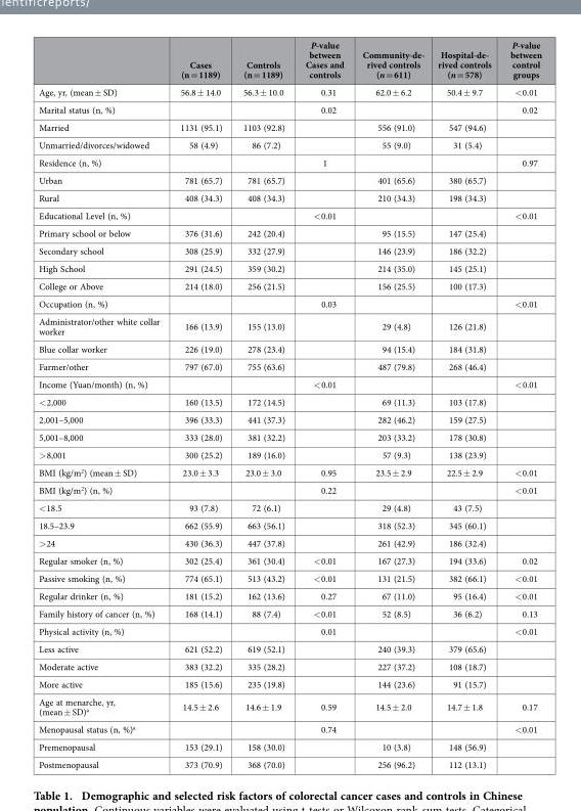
<table><thead><tr><td></td><td>Cases (n = 1189)</td><td>Controls (n = 1189)</td><td>P-value between Cases and controls</td><td>Community-de- rived controls (n = 611)</td><td>Hospital-de- rived controls (n = 578)</td><td>P-value between control groups</td></tr></thead><tbody><tr><td>Age, yr, (mean ± SD)</td><td>56.8 ± 14.0</td><td>56.3 ± 10.0</td><td>0.31</td><td>62.0 ± 6.2</td><td>50.4 ± 9.7</td><td>&lt; 0.01</td></tr><tr><td>Marital status (n, %)</td><td></td><td></td><td>0.02</td><td></td><td></td><td>0.02</td></tr><tr><td>Married</td><td>1131 (95.1)</td><td>1103 (92.8)</td><td></td><td>556 (91.0)</td><td>547 (94.6)</td><td></td></tr><tr><td>Unmarried/divorces/widowed</td><td>58 (4.9)</td><td>86 (7.2)</td><td></td><td>55 (9.0)</td><td>31 (5.4)</td><td></td></tr><tr><td>Residence (n, %)</td><td></td><td></td><td>1</td><td></td><td></td><td>0.97</td></tr><tr><td>Urban</td><td>781 (65.7)</td><td>781 (65.7)</td><td></td><td>401 (65.6)</td><td>380 (65.7)</td><td></td></tr><tr><td>Rural</td><td>408 (34.3)</td><td>408 (34.3)</td><td></td><td>210 (34.3)</td><td>198 (34.3)</td><td></td></tr><tr><td>Educational Level (n, %)</td><td></td><td></td><td>&lt; 0.01</td><td></td><td></td><td>&lt; 0.01</td></tr><tr><td>Primary school or below</td><td>376 (31.6)</td><td>242 (20.4)</td><td></td><td>95 (15.5)</td><td>147 (25.4)</td><td></td></tr><tr><td>Secondary school</td><td>308 (25.9)</td><td>332 (27.9)</td><td></td><td>146 (23.9)</td><td>186 (32.2)</td><td></td></tr><tr><td>High School</td><td>291 (24.5)</td><td>359 (30.2)</td><td></td><td>214 (35.0)</td><td>145 (25.1)</td><td></td></tr><tr><td>College or Above</td><td>214 (18.0)</td><td>256 (21.5)</td><td></td><td>156 (25.5)</td><td>100 (17.3)</td><td></td></tr><tr><td>Occupation (n, %)</td><td></td><td></td><td>0.03</td><td></td><td></td><td>&lt; 0.01</td></tr><tr><td>Administrator/other white collar worker</td><td>166 (13.9)</td><td>155 (13.0)</td><td></td><td>29 (4.8)</td><td>126 (21.8)</td><td></td></tr><tr><td>Blue collar worker</td><td>226 (19.0)</td><td>278 (23.4)</td><td></td><td>94 (15.4)</td><td>184 (31.8)</td><td></td></tr><tr><td>Farmer/other</td><td>797 (67.0)</td><td>755 (63.6)</td><td></td><td>487 (79.8)</td><td>268 (46.4)</td><td></td></tr><tr><td>Income (Yuan/month) (n, %)</td><td></td><td></td><td>&lt; 0.01</td><td></td><td></td><td>&lt; 0.01</td></tr><tr><td>&lt; 2,000</td><td>160 (13.5)</td><td>172 (14.5)</td><td></td><td>69 (11.3)</td><td>103 (17.8)</td><td></td></tr><tr><td>2,001–5,000</td><td>396 (33.3)</td><td>441 (37.3)</td><td></td><td>282 (46.2)</td><td>159 (27.5)</td><td></td></tr><tr><td>5,001–8,000</td><td>333 (28.0)</td><td>381 (32.2)</td><td></td><td>203 (33.2)</td><td>178 (30.8)</td><td></td></tr><tr><td>&gt; 8,001</td><td>300 (25.2)</td><td>189 (16.0)</td><td></td><td>57 (9.3)</td><td>138 (23.9)</td><td></td></tr><tr><td>BMI (kg/m<sup>2</sup>) (mean ± SD)</td><td>23.0 ± 3.3</td><td>23.0 ± 3.0</td><td>0.95</td><td>23.5 ± 2.9</td><td>22.5 ± 2.9</td><td>&lt; 0.01</td></tr><tr><td>BMI (kg/m<sup>2</sup>) (n, %)</td><td></td><td></td><td>0.22</td><td></td><td></td><td>&lt; 0.01</td></tr><tr><td>&lt; 18.5</td><td>93 (7.8)</td><td>72 (6.1)</td><td></td><td>29 (4.8)</td><td>43 (7.5)</td><td></td></tr><tr><td>18.5–23.9</td><td>662 (55.9)</td><td>663 (56.1)</td><td></td><td>318 (52.3)</td><td>345 (60.1)</td><td></td></tr><tr><td>&gt; 24</td><td>430 (36.3)</td><td>447 (37.8)</td><td></td><td>261 (42.9)</td><td>186 (32.4)</td><td></td></tr><tr><td>Regular smoker (n, %)</td><td>302 (25.4)</td><td>361 (30.4)</td><td>&lt; 0.01</td><td>167 (27.3)</td><td>194 (33.6)</td><td>0.02</td></tr><tr><td>Passive smoking (n, %)</td><td>774 (65.1)</td><td>513 (43.2)</td><td>&lt; 0.01</td><td>131 (21.5)</td><td>382 (66.1)</td><td>&lt; 0.01</td></tr><tr><td>Regular drinker (n, %)</td><td>181 (15.2)</td><td>162 (13.6)</td><td>0.27</td><td>67 (11.0)</td><td>95 (16.4)</td><td>&lt; 0.01</td></tr><tr><td>Family history of cancer (n, %)</td><td>168 (14.1)</td><td>88 (7.4)</td><td>&lt; 0.01</td><td>52 (8.5)</td><td>36 (6.2)</td><td>0.13</td></tr><tr><td>Physical activity (n, %)</td><td></td><td></td><td>0.01</td><td></td><td></td><td>&lt; 0.01</td></tr><tr><td>Less active</td><td>621 (52.2)</td><td>619 (52.1)</td><td></td><td>240 (39.3)</td><td>379 (65.6)</td><td></td></tr><tr><td>Moderate active</td><td>383 (32.2)</td><td>335 (28.2)</td><td></td><td>227 (37.2)</td><td>108 (18.7)</td><td></td></tr><tr><td>More active</td><td>185 (15.6)</td><td>235 (19.8)</td><td></td><td>144 (23.6)</td><td>91 (15.7)</td><td></td></tr><tr><td>Age at menarche, yr, (mean ± SD)<sup>a</sup></td><td>14.5 ± 2.6</td><td>14.6 ± 1.9</td><td>0.59</td><td>14.5 ± 2.0</td><td>14.7 ± 1.8</td><td>0.17</td></tr><tr><td>Menopausal status (n, %)<sup>a</sup></td><td></td><td></td><td>0.74</td><td></td><td></td><td>&lt; 0.01</td></tr><tr><td>Premenopausal</td><td>153 (29.1)</td><td>158 (30.0)</td><td></td><td>10 (3.8)</td><td>148 (56.9)</td><td></td></tr><tr><td>Postmenopausal</td><td>373 (70.9)</td><td>368 (70.0)</td><td></td><td>256 (96.2)</td><td>112 (13.1)</td><td></td></tr></tbody></table>